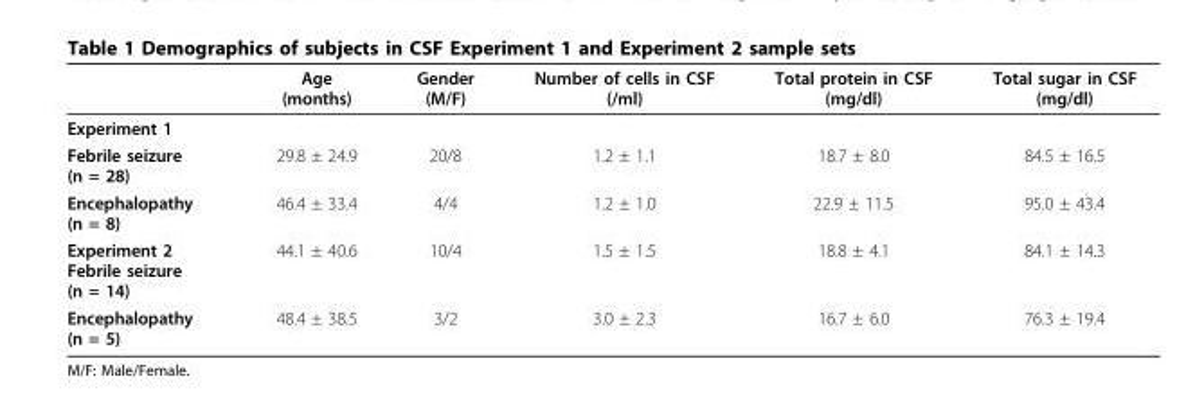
<table><thead><tr><td></td><td>Age (months)</td><td>Gender (M/F)</td><td>Number of cells in CSF (/ml)</td><td>Total protein in CSF (mg/dl)</td><td>Total sugar in CSF (mg/dl)</td></tr></thead><tbody><tr><td colspan="6">Experiment 1</td></tr><tr><td>Febrile seizure (n = 28)</td><td>29.8 ± 24.9</td><td>20/8</td><td>1.2 ± 1.1</td><td>18.7 ± 8.0</td><td>84.5 ± 16.5</td></tr><tr><td>Encephalopathy (n = 8)</td><td>46.4 ± 33.4</td><td>4/4</td><td>1.2 ± 1.0</td><td>22.9 ± 11.5</td><td>95.0 ± 43.4</td></tr><tr><td>Experiment 2 Febrile seizure (n = 14)</td><td>44.1 ± 40.6</td><td>10/4</td><td>1.5 ± 1.5</td><td>18.8 ± 4.1</td><td>84.1 ± 14.3</td></tr><tr><td>Encephalopathy (n = 5)</td><td>48.4 ± 38.5</td><td>3/2</td><td>3.0 ± 2.3</td><td>16.7 ± 6.0</td><td>76.3 ± 19.4</td></tr></tbody></table>